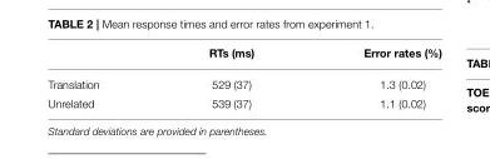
<table><thead><tr><td></td><td>RTs (ms)</td><td>Error rates (%)</td></tr></thead><tbody><tr><td>Translation</td><td>529 (37)</td><td>1.3 (0.02)</td></tr><tr><td>Unrelated</td><td>539 (37)</td><td>1.1 (0.02)</td></tr></tbody></table>